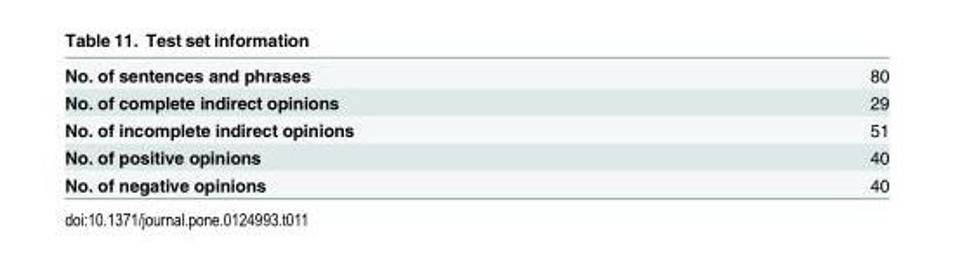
<table><tbody><tr><td>No. of sentences and phrases</td><td>80</td></tr><tr><td>No. of complete indirect opinions</td><td>29</td></tr><tr><td>No. of incomplete indirect opinions</td><td>51</td></tr><tr><td>No. of positive opinions</td><td>40</td></tr><tr><td>No. of negative opinions</td><td>40</td></tr></tbody></table>